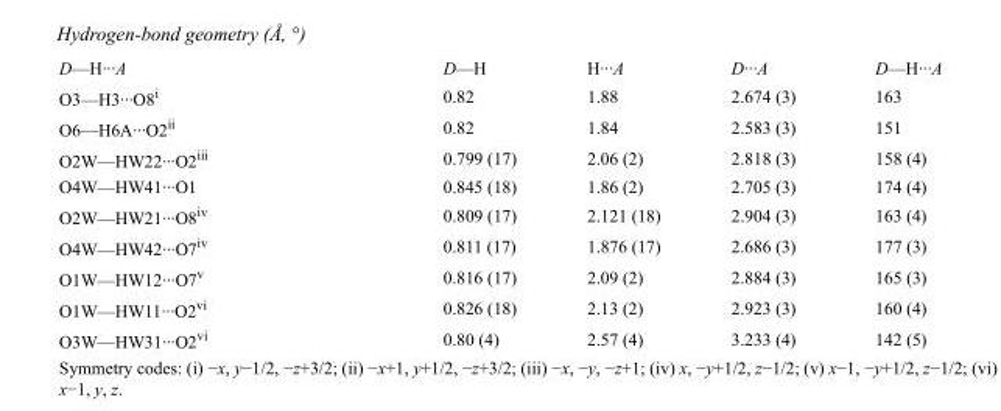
<table><tbody><tr><td>D—H···A</td><td>D—H</td><td>H···A</td><td>D···A</td><td>D—H···A</td></tr><tr><td>O3—H3···O8<sup>i</sup></td><td>0.82</td><td>1.88</td><td>2.674 (3)</td><td>163</td></tr><tr><td>O6—H6A···O2<sup>ii</sup></td><td>0.82</td><td>1.84</td><td>2.583 (3)</td><td>151</td></tr><tr><td>O2W—HW22···O2<sup>iii</sup></td><td>0.799 (17)</td><td>2.06 (2)</td><td>2.818 (3)</td><td>158 (4)</td></tr><tr><td>O4W—HW41···O1</td><td>0.845 (18)</td><td>1.86 (2)</td><td>2.705 (3)</td><td>174 (4)</td></tr><tr><td>O2W—HW21···O8<sup>iv</sup></td><td>0.809 (17)</td><td>2.121 (18)</td><td>2.904 (3)</td><td>163 (4)</td></tr><tr><td>O4W—HW42···O7<sup>iv</sup></td><td>0.811 (17)</td><td>1.876 (17)</td><td>2.686 (3)</td><td>177 (3)</td></tr><tr><td>O1W—HW12···O7<sup>v</sup></td><td>0.816 (17)</td><td>2.09 (2)</td><td>2.884 (3)</td><td>165 (3)</td></tr><tr><td>O1W—HW11···O2<sup>vi</sup></td><td>0.826 (18)</td><td>2.13 (2)</td><td>2.923 (3)</td><td>160 (4)</td></tr><tr><td>O3W—HW31···O2<sup>vi</sup></td><td>0.80 (4)</td><td>2.57 (4)</td><td>3.233 (4)</td><td>142 (5)</td></tr></tbody></table>